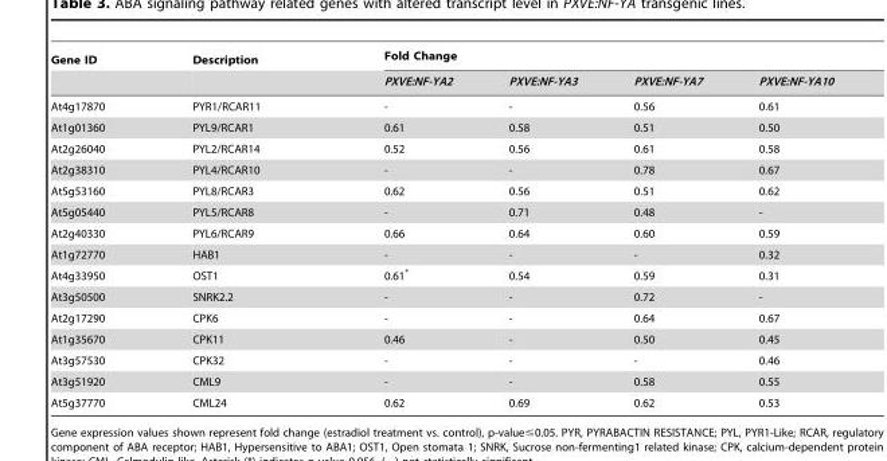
<table><thead><tr><td rowspan="2">Gene ID</td><td rowspan="2">Description</td><td colspan="4">Fold Change</td></tr><tr><td>PXVE:NF-YA2</td><td>PXVE:NF-YA3</td><td>PXVE:NF-YA7</td><td>PXVE:NF-YA10</td></tr></thead><tbody><tr><td>At4g17870</td><td>PYR1/RCAR11</td><td>-</td><td>-</td><td>0.56</td><td>0.61</td></tr><tr><td>At1g01360</td><td>PYL9/RCAR1</td><td>0.61</td><td>0.58</td><td>0.51</td><td>0.50</td></tr><tr><td>At2g26040</td><td>PYL2/RCAR14</td><td>0.52</td><td>0.56</td><td>0.61</td><td>0.58</td></tr><tr><td>At2g38310</td><td>PYL4/RCAR10</td><td>-</td><td>-</td><td>0.78</td><td>0.67</td></tr><tr><td>At5g53160</td><td>PYL8/RCAR3</td><td>0.62</td><td>0.56</td><td>0.51</td><td>0.62</td></tr><tr><td>At5g05440</td><td>PYL5/RCAR8</td><td>-</td><td>0.71</td><td>0.48</td><td>-</td></tr><tr><td>At2g40330</td><td>PYL6/RCAR9</td><td>0.66</td><td>0.64</td><td>0.60</td><td>0.59</td></tr><tr><td>At1g72770</td><td>HAB1</td><td>-</td><td>-</td><td>-</td><td>0.32</td></tr><tr><td>At4g33950</td><td>OST1</td><td>0.61*</td><td>0.54</td><td>0.59</td><td>0.31</td></tr><tr><td>At3g50500</td><td>SNRK2.2</td><td>-</td><td>-</td><td>0.72</td><td>-</td></tr><tr><td>At2g17290</td><td>CPK6</td><td>-</td><td>-</td><td>0.64</td><td>0.67</td></tr><tr><td>At1g35670</td><td>CPK11</td><td>0.46</td><td>-</td><td>0.50</td><td>0.45</td></tr><tr><td>At3g57530</td><td>CPK32</td><td>-</td><td>-</td><td>-</td><td>0.46</td></tr><tr><td>At3g51920</td><td>CML9</td><td>-</td><td>-</td><td>0.58</td><td>0.55</td></tr><tr><td>At5g37770</td><td>CML24</td><td>0.62</td><td>0.69</td><td>0.62</td><td>0.53</td></tr></tbody></table>